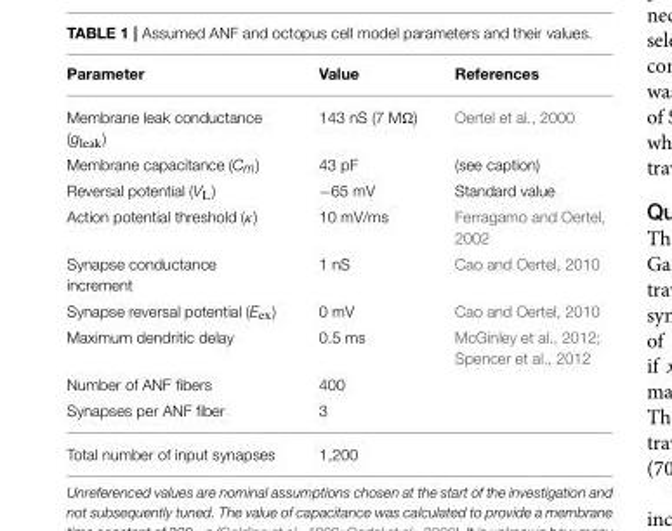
<table><thead><tr><td>Parameter</td><td>Value</td><td>References</td></tr></thead><tbody><tr><td>Membrane leak conductance (g<sub>leak</sub>)</td><td>143 nS (7 MΩ)</td><td>Oertel et al., 2000</td></tr><tr><td>Membrane capacitance (C<sub>m</sub>)</td><td>43 pF</td><td>(see caption)</td></tr><tr><td>Reversal potential (V<sub>L</sub>)</td><td>−65 mV</td><td>Standard value</td></tr><tr><td>Action potential threshold (κ)</td><td>10 mV/ms</td><td>Ferragamo and Oertel, 2002</td></tr><tr><td>Synapse conductance increment</td><td>1 nS</td><td>Cao and Oertel, 2010</td></tr><tr><td>Synapse reversal potential (E<sub>ex</sub>)</td><td>0 mV</td><td>Cao and Oertel, 2010</td></tr><tr><td>Maximum dendritic delay</td><td>0.5 ms</td><td>McGinley et al., 2012; Spencer et al., 2012</td></tr><tr><td>Number of ANF fibers</td><td>400</td><td></td></tr><tr><td>Synapses per ANF fiber</td><td>3</td><td></td></tr><tr><td>Total number of input synapses</td><td>1,200</td><td></td></tr></tbody></table>